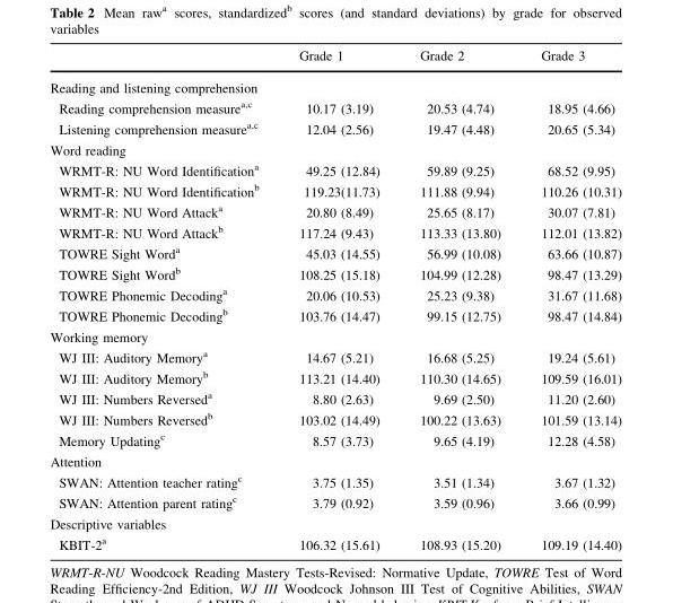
<table><thead><tr><td></td><td>Grade 1</td><td>Grade 2</td><td>Grade 3</td></tr></thead><tbody><tr><td colspan="4">Reading and listening comprehension</td></tr><tr><td>Reading comprehension measure<sup>a,c</sup></td><td>10.17 (3.19)</td><td>20.53 (4.74)</td><td>18.95 (4.66)</td></tr><tr><td>Listening comprehension measure<sup>a,c</sup></td><td>12.04 (2.56)</td><td>19.47 (4.48)</td><td>20.65 (5.34)</td></tr><tr><td colspan="4">Word reading</td></tr><tr><td>WRMT-R: NU Word Identification<sup>a</sup></td><td>49.25 (12.84)</td><td>59.89 (9.25)</td><td>68.52 (9.95)</td></tr><tr><td>WRMT-R: NU Word Identification<sup>b</sup></td><td>119.23(11.73)</td><td>111.88 (9.94)</td><td>110.26 (10.31)</td></tr><tr><td>WRMT-R: NU Word Attack<sup>a</sup></td><td>20.80 (8.49)</td><td>25.65 (8.17)</td><td>30.07 (7.81)</td></tr><tr><td>WRMT-R: NU Word Attack<sup>b</sup></td><td>117.24 (9.43)</td><td>113.33 (13.80)</td><td>112.01 (13.82)</td></tr><tr><td>TOWRE Sight Word<sup>a</sup></td><td>45.03 (14.55)</td><td>56.99 (10.08)</td><td>63.66 (10.87)</td></tr><tr><td>TOWRE Sight Word<sup>b</sup></td><td>108.25 (15.18)</td><td>104.99 (12.28)</td><td>98.47 (13.29)</td></tr><tr><td>TOWRE Phonemic Decoding<sup>a</sup></td><td>20.06 (10.53)</td><td>25.23 (9.38)</td><td>31.67 (11.68)</td></tr><tr><td>TOWRE Phonemic Decoding<sup>b</sup></td><td>103.76 (14.47)</td><td>99.15 (12.75)</td><td>98.47 (14.84)</td></tr><tr><td colspan="4">Working memory</td></tr><tr><td>WJ III: Auditory Memory<sup>a</sup></td><td>14.67 (5.21)</td><td>16.68 (5.25)</td><td>19.24 (5.61)</td></tr><tr><td>WJ III: Auditory Memory<sup>b</sup></td><td>113.21 (14.40)</td><td>110.30 (14.65)</td><td>109.59 (16.01)</td></tr><tr><td>WJ III: Numbers Reversed<sup>a</sup></td><td>8.80 (2.63)</td><td>9.69 (2.50)</td><td>11.20 (2.60)</td></tr><tr><td>WJ III: Numbers Reversed<sup>b</sup></td><td>103.02 (14.49)</td><td>100.22 (13.63)</td><td>101.59 (13.14)</td></tr><tr><td>Memory Updating<sup>c</sup></td><td>8.57 (3.73)</td><td>9.65 (4.19)</td><td>12.28 (4.58)</td></tr><tr><td colspan="4">Attention</td></tr><tr><td>SWAN: Attention teacher rating<sup>c</sup></td><td>3.75 (1.35)</td><td>3.51 (1.34)</td><td>3.67 (1.32)</td></tr><tr><td>SWAN: Attention parent rating<sup>c</sup></td><td>3.79 (0.92)</td><td>3.59 (0.96)</td><td>3.66 (0.99)</td></tr><tr><td colspan="4">Descriptive variables</td></tr><tr><td>KBIT-2<sup>a</sup></td><td>106.32 (15.61)</td><td>108.93 (15.20)</td><td>109.19 (14.40)</td></tr></tbody></table>